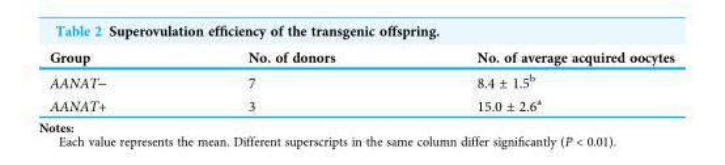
<table><thead><tr><td>Group</td><td>No. of donors</td><td>No. of average acquired oocytes</td></tr></thead><tbody><tr><td>AANAT-</td><td>7</td><td>8.4 ± 1.5<sup>b</sup></td></tr><tr><td>AANAT+</td><td>3</td><td>15.0 ± 2.6<sup>a</sup></td></tr></tbody></table>